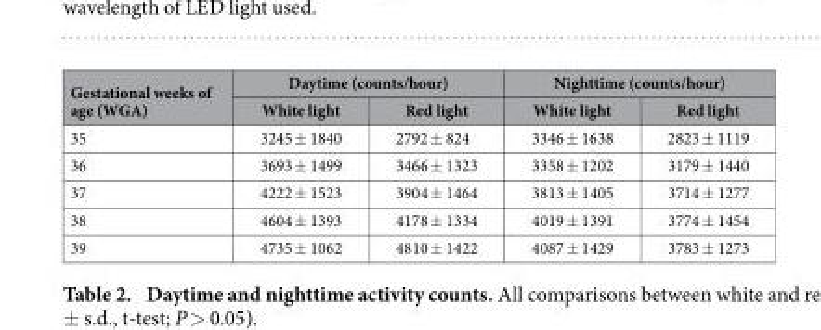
<table><thead><tr><td rowspan="2">Gestational weeks of age (WGA)</td><td colspan="2">Daytime (counts/hour)</td><td colspan="2">Nighttime (counts/hour)</td></tr><tr><td>White light</td><td>Red light</td><td>White light</td><td>Red light</td></tr></thead><tbody><tr><td>35</td><td>3245 ± 1840</td><td>2792 ± 824</td><td>3346 ± 1638</td><td>2823 ± 1119</td></tr><tr><td>36</td><td>3693 ± 1499</td><td>3466 ± 1323</td><td>3358 ± 1202</td><td>3179 ± 1440</td></tr><tr><td>37</td><td>4222 ± 1523</td><td>3904 ± 1464</td><td>3813 ± 1405</td><td>3714 ± 1277</td></tr><tr><td>38</td><td>4604 ± 1393</td><td>4178 ± 1334</td><td>4019 ± 1391</td><td>3774 ± 1454</td></tr><tr><td>39</td><td>4735 ± 1062</td><td>4810 ± 1422</td><td>4087 ± 1429</td><td>3783 ± 1273</td></tr></tbody></table>